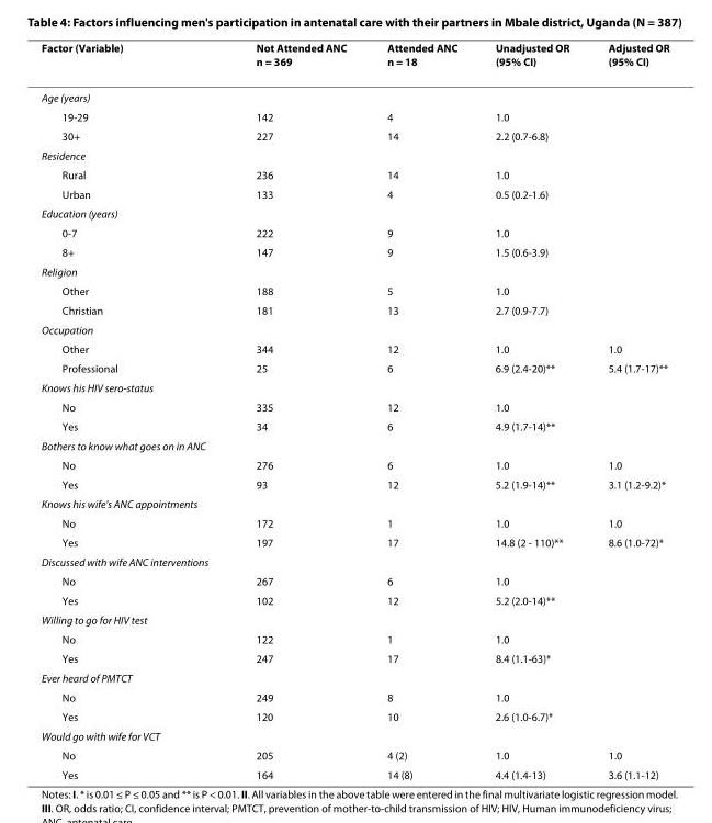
<table><thead><tr><td>Factor (Variable)</td><td>Not Attended ANC n = 369</td><td>Attended ANC n = 18</td><td>Unadjusted OR (95% CI)</td><td>Adjusted OR (95% CI)</td></tr></thead><tbody><tr><td colspan="5">Age (years)</td></tr><tr><td>19-29</td><td>142</td><td>4</td><td>1.0</td><td></td></tr><tr><td>30+</td><td>227</td><td>14</td><td>2.2 (0.7-6.8)</td><td></td></tr><tr><td colspan="5">Residence</td></tr><tr><td>Rural</td><td>236</td><td>14</td><td>1.0</td><td></td></tr><tr><td>Urban</td><td>133</td><td>4</td><td>0.5 (0.2-1.6)</td><td></td></tr><tr><td colspan="5">Education (years)</td></tr><tr><td>0-7</td><td>222</td><td>9</td><td>1.0</td><td></td></tr><tr><td>8+</td><td>147</td><td>9</td><td>1.5 (0.6-3.9)</td><td></td></tr><tr><td colspan="5">Religion</td></tr><tr><td>Other</td><td>188</td><td>5</td><td>1.0</td><td></td></tr><tr><td>Christian</td><td>181</td><td>13</td><td>2.7 (0.9-7.7)</td><td></td></tr><tr><td colspan="5">Occupation</td></tr><tr><td>Other</td><td>344</td><td>12</td><td>1.0</td><td>1.0</td></tr><tr><td>Professional</td><td>25</td><td>6</td><td>6.9 (2.4-20)**</td><td>5.4 (1.7-17)**</td></tr><tr><td colspan="5">Knows his HIV sero-status</td></tr><tr><td>No</td><td>335</td><td>12</td><td>1.0</td><td></td></tr><tr><td>Yes</td><td>34</td><td>6</td><td>4.9 (1.7-14)**</td><td></td></tr><tr><td colspan="5">Bothers to know what goes on in ANC</td></tr><tr><td>No</td><td>276</td><td>6</td><td>1.0</td><td>1.0</td></tr><tr><td>Yes</td><td>93</td><td>12</td><td>5.2 (1.9-14)**</td><td>3.1 (1.2-9.2)*</td></tr><tr><td colspan="5">Knows his wife&#x27;s ANC appointments</td></tr><tr><td>No</td><td>172</td><td>1</td><td>1.0</td><td>1.0</td></tr><tr><td>Yes</td><td>197</td><td>17</td><td>14.8 (2 - 110)**</td><td>8.6 (1.0-72)*</td></tr><tr><td colspan="5">Discussed with wife ANC interventions</td></tr><tr><td>No</td><td>267</td><td>6</td><td>1.0</td><td></td></tr><tr><td>Yes</td><td>102</td><td>12</td><td>5.2 (2.0-14)**</td><td></td></tr><tr><td colspan="5">Willing to go for HIV test</td></tr><tr><td>No</td><td>122</td><td>1</td><td>1.0</td><td></td></tr><tr><td>Yes</td><td>247</td><td>17</td><td>8.4 (1.1-63)*</td><td></td></tr><tr><td colspan="5">Ever heard of PMTCT</td></tr><tr><td>No</td><td>249</td><td>8</td><td>1.0</td><td></td></tr><tr><td>Yes</td><td>120</td><td>10</td><td>2.6 (1.0-6.7)*</td><td></td></tr><tr><td colspan="5">Would go with wife for VCT</td></tr><tr><td>No</td><td>205</td><td>4 (2)</td><td>1.0</td><td>1.0</td></tr><tr><td>Yes</td><td>164</td><td>14 (8)</td><td>4.4 (1.4-13)</td><td>3.6 (1.1-12)</td></tr></tbody></table>